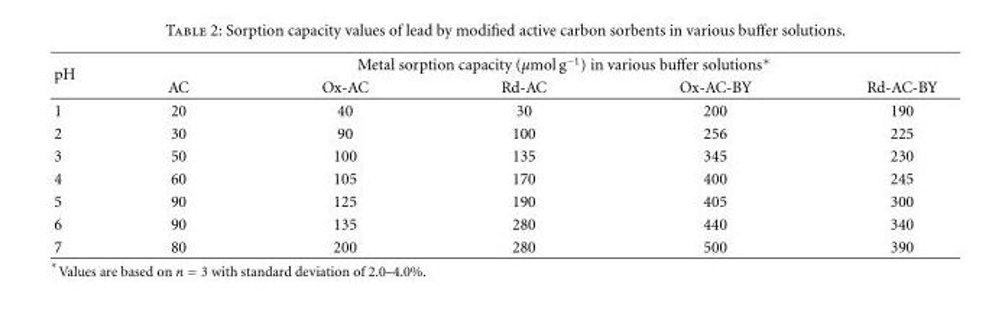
<table><thead><tr><td rowspan="2">pH</td><td colspan="5">Metal sorption capacity (μmol g−1) in various buffer solutions∗</td></tr><tr><td>AC</td><td>Ox-AC</td><td>Rd-AC</td><td>Ox-AC-BY</td><td>Rd-AC-BY</td></tr></thead><tbody><tr><td>1</td><td>20</td><td>40</td><td>30</td><td>200</td><td>190</td></tr><tr><td>2</td><td>30</td><td>90</td><td>100</td><td>256</td><td>225</td></tr><tr><td>3</td><td>50</td><td>100</td><td>135</td><td>345</td><td>230</td></tr><tr><td>4</td><td>60</td><td>105</td><td>170</td><td>400</td><td>245</td></tr><tr><td>5</td><td>90</td><td>125</td><td>190</td><td>405</td><td>300</td></tr><tr><td>6</td><td>90</td><td>135</td><td>280</td><td>440</td><td>340</td></tr><tr><td>7</td><td>80</td><td>200</td><td>280</td><td>500</td><td>390</td></tr></tbody></table>